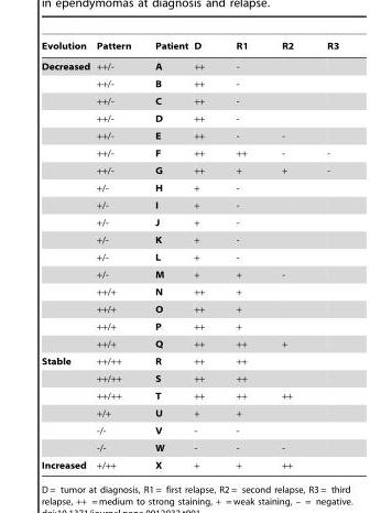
<table><thead><tr><td>Evolution</td><td>Pattern</td><td>Patient</td><td>D</td><td>R1</td><td>R2</td><td>R3</td></tr></thead><tbody><tr><td rowspan="17">Decreased</td><td>++/-</td><td>A</td><td>++</td><td>-</td><td></td><td></td></tr><tr><td>++/-</td><td>B</td><td>++</td><td>-</td><td></td><td></td></tr><tr><td>++/-</td><td>C</td><td>++</td><td>-</td><td></td><td></td></tr><tr><td>++/-</td><td>D</td><td>++</td><td>-</td><td></td><td></td></tr><tr><td>++/-</td><td>E</td><td>++</td><td>-</td><td>-</td><td></td></tr><tr><td>++/-</td><td>F</td><td>++</td><td>++</td><td>-</td><td>-</td></tr><tr><td>++/-</td><td>G</td><td>++</td><td>+</td><td>+</td><td>-</td></tr><tr><td>+/-</td><td>H</td><td>+</td><td>-</td><td></td><td></td></tr><tr><td>+/-</td><td>I</td><td>+</td><td>-</td><td></td><td></td></tr><tr><td>+/-</td><td>J</td><td>+</td><td>-</td><td></td><td></td></tr><tr><td>+/-</td><td>K</td><td>+</td><td>-</td><td></td><td></td></tr><tr><td>+/-</td><td>L</td><td>+</td><td>-</td><td></td><td></td></tr><tr><td>+/-</td><td>M</td><td>+</td><td>+</td><td>-</td><td></td></tr><tr><td>++/+</td><td>N</td><td>++</td><td>+</td><td></td><td></td></tr><tr><td>++/+</td><td>O</td><td>++</td><td>+</td><td></td><td></td></tr><tr><td>++/+</td><td>P</td><td>++</td><td>+</td><td></td><td></td></tr><tr><td>++/+</td><td>Q</td><td>++</td><td>++</td><td>+</td><td></td></tr><tr><td rowspan="6">Stable</td><td>++/++</td><td>R</td><td>++</td><td>++</td><td></td><td></td></tr><tr><td>++/++</td><td>S</td><td>++</td><td>++</td><td></td><td></td></tr><tr><td>++/++</td><td>T</td><td>++</td><td>++</td><td>++</td><td></td></tr><tr><td>+/+</td><td>U</td><td>+</td><td>+</td><td></td><td></td></tr><tr><td>-/-</td><td>V</td><td>-</td><td>-</td><td></td><td></td></tr><tr><td>-/-</td><td>W</td><td>-</td><td>-</td><td>-</td><td></td></tr><tr><td>Increased</td><td>+/++</td><td>X</td><td>+</td><td>+</td><td>++</td><td></td></tr></tbody></table>